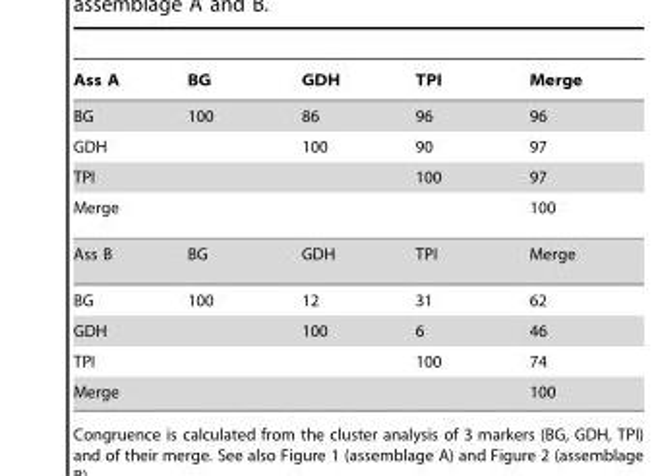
<table><thead><tr><td>Ass A</td><td>BG</td><td>GDH</td><td>TPI</td><td>Merge</td></tr></thead><tbody><tr><td>BG</td><td>100</td><td>86</td><td>96</td><td>96</td></tr><tr><td>GDH</td><td></td><td>100</td><td>90</td><td>97</td></tr><tr><td>TPI</td><td></td><td></td><td>100</td><td>97</td></tr><tr><td>Merge</td><td></td><td></td><td></td><td>100</td></tr><tr><td>Ass B</td><td>BG</td><td>GDH</td><td>TPI</td><td>Merge</td></tr><tr><td>BG</td><td>100</td><td>12</td><td>31</td><td>62</td></tr><tr><td>GDH</td><td></td><td>100</td><td>6</td><td>46</td></tr><tr><td>TPI</td><td></td><td></td><td>100</td><td>74</td></tr><tr><td>Merge</td><td></td><td></td><td></td><td>100</td></tr></tbody></table>